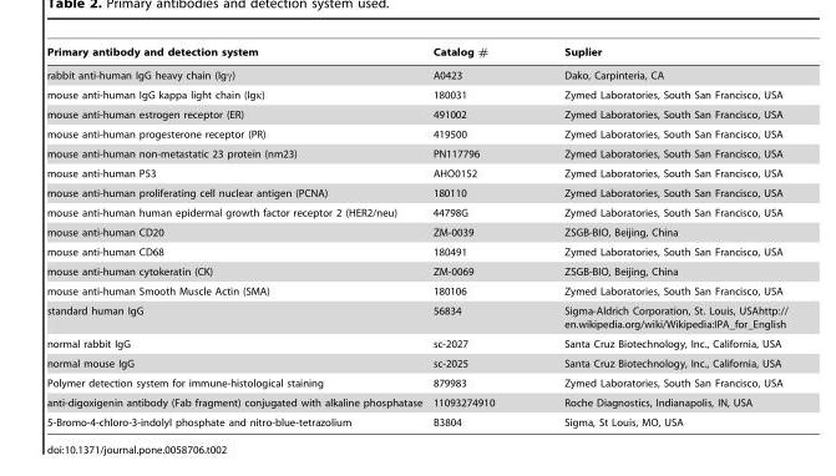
<table><thead><tr><td>Primary antibody and detection system</td><td>Catalog #</td><td>Suplier</td></tr></thead><tbody><tr><td>rabbit anti-human IgG heavy chain (Igγ)</td><td>A0423</td><td>Dako, Carpinteria, CA</td></tr><tr><td>mouse anti-human IgG kappa light chain (Igκ)</td><td>180031</td><td>Zymed Laboratories, South San Francisco, USA</td></tr><tr><td>mouse anti-human estrogen receptor (ER)</td><td>491002</td><td>Zymed Laboratories, South San Francisco, USA</td></tr><tr><td>mouse anti-human progesterone receptor (PR)</td><td>419500</td><td>Zymed Laboratories, South San Francisco, USA</td></tr><tr><td>mouse anti-human non-metastatic 23 protein (nm23)</td><td>PN117796</td><td>Zymed Laboratories, South San Francisco, USA</td></tr><tr><td>mouse anti-human P53</td><td>AHO0152</td><td>Zymed Laboratories, South San Francisco, USA</td></tr><tr><td>mouse anti-human proliferating cell nuclear antigen (PCNA)</td><td>180110</td><td>Zymed Laboratories, South San Francisco, USA</td></tr><tr><td>mouse anti-human human epidermal growth factor receptor 2 (HER2/neu)</td><td>44798G</td><td>Zymed Laboratories, South San Francisco, USA</td></tr><tr><td>mouse anti-human CD20</td><td>ZM-0039</td><td>ZSGB-BIO, Beijing, China</td></tr><tr><td>mouse anti-human CD68</td><td>180491</td><td>Zymed Laboratories, South San Francisco, USA</td></tr><tr><td>mouse anti-human cytokeratin (CK)</td><td>ZM-0069</td><td>ZSGB-BIO, Beijing, China</td></tr><tr><td>mouse anti-human Smooth Muscle Actin (SMA)</td><td>180106</td><td>Zymed Laboratories, South San Francisco, USA</td></tr><tr><td>standard human IgG</td><td>56834</td><td>Sigma-Aldrich Corporation, St. Louis, USAhttp:// en.wikipedia.org/wiki/Wikipedia:IPA_for_English</td></tr><tr><td>normal rabbit IgG</td><td>sc-2027</td><td>Santa Cruz Biotechnology, Inc., California, USA</td></tr><tr><td>normal mouse IgG</td><td>sc-2025</td><td>Santa Cruz Biotechnology, Inc., California, USA</td></tr><tr><td>Polymer detection system for immune-histological staining</td><td>879983</td><td>Zymed Laboratories, South San Francisco, USA</td></tr><tr><td>anti-digoxigenin antibody (Fab fragment) conjugated with alkaline phosphatase</td><td>11093274910</td><td>Roche Diagnostics, Indianapolis, IN, USA</td></tr><tr><td>5-Bromo-4-chloro-3-indolyl phosphate and nitro-blue-tetrazolium</td><td>B3804</td><td>Sigma, St Louis, MO, USA</td></tr></tbody></table>